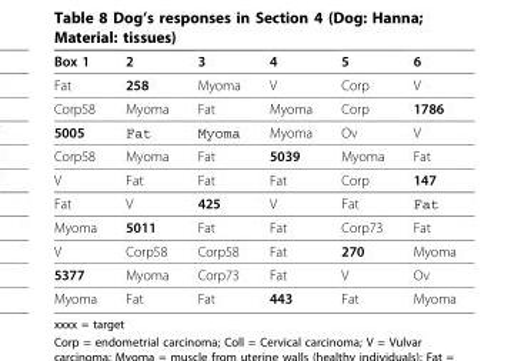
<table><thead><tr><td>Box 1</td><td>2</td><td>3</td><td>4</td><td>5</td><td>6</td></tr></thead><tbody><tr><td>Fat</td><td>258</td><td>Myoma</td><td>V</td><td>Corp</td><td>V</td></tr><tr><td>Corp58</td><td>Myoma</td><td>Fat</td><td>Myoma</td><td>Corp</td><td>1786</td></tr><tr><td>5005</td><td>Fat</td><td>Myoma</td><td>Myoma</td><td>Ov</td><td>V</td></tr><tr><td>Corp58</td><td>Myoma</td><td>Fat</td><td>5039</td><td>Myoma</td><td>Fat</td></tr><tr><td>V</td><td>Fat</td><td>Fat</td><td>Fat</td><td>Corp</td><td>147</td></tr><tr><td>Fat</td><td>V</td><td>425</td><td>V</td><td>Fat</td><td>Fat</td></tr><tr><td>Myoma</td><td>5011</td><td>Fat</td><td>Fat</td><td>Corp73</td><td>Fat</td></tr><tr><td>V</td><td>Corp58</td><td>Corp58</td><td>Fat</td><td>270</td><td>Myoma</td></tr><tr><td>5377</td><td>Myoma</td><td>Corp73</td><td>Fat</td><td>V</td><td>Ov</td></tr><tr><td>Myoma</td><td>Fat</td><td>Fat</td><td>443</td><td>Fat</td><td>Myoma</td></tr></tbody></table>